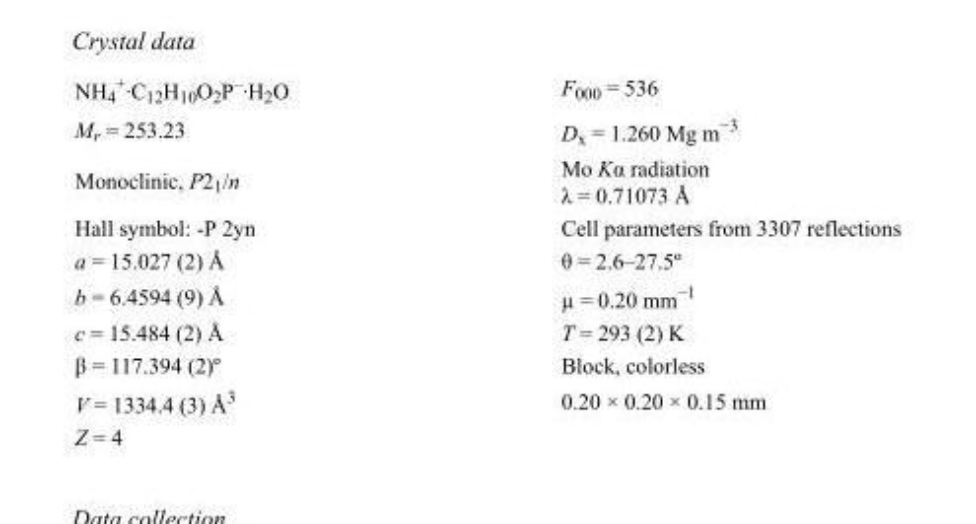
<table><tbody><tr><td>NH<sub>4</sub> <sup>+</sup>·C<sub>12</sub>H<sub>10</sub>O<sub>2</sub>P<sup>–</sup>·H<sub>2</sub>O</td><td>F<sub>000</sub> = 536</td></tr><tr><td>M<sub>r</sub> = 253.23</td><td>D<sub>x</sub> = 1.260 Mg m<sup>−3</sup></td></tr><tr><td>Monoclinic, P2<sub>1</sub>/n</td><td>Mo Kα radiation λ = 0.71073 Å</td></tr><tr><td>Hall symbol: -P 2yn</td><td>Cell parameters from 3307 reflections</td></tr><tr><td>a = 15.027 (2) Å</td><td>θ = 2.6–27.5º</td></tr><tr><td>b = 6.4594 (9) Å</td><td>µ = 0.20 mm<sup>−1</sup></td></tr><tr><td>c = 15.484 (2) Å</td><td>T = 293 (2) K</td></tr><tr><td>β = 117.394 (2)º</td><td>Block, colorless</td></tr><tr><td>V = 1334.4 (3) Å<sup>3</sup></td><td>0.20 × 0.20 × 0.15 mm</td></tr><tr><td>Z = 4</td><td></td></tr></tbody></table>